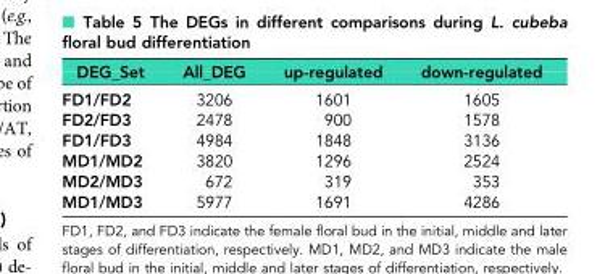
<table><thead><tr><td>DEG_Set</td><td>All_DEG</td><td>up-regulated</td><td>down-regulated</td></tr></thead><tbody><tr><td>FD1/FD2</td><td>3206</td><td>1601</td><td>1605</td></tr><tr><td>FD2/FD3</td><td>2478</td><td>900</td><td>1578</td></tr><tr><td>FD1/FD3</td><td>4984</td><td>1848</td><td>3136</td></tr><tr><td>MD1/MD2</td><td>3820</td><td>1296</td><td>2524</td></tr><tr><td>MD2/MD3</td><td>672</td><td>319</td><td>353</td></tr><tr><td>MD1/MD3</td><td>5977</td><td>1691</td><td>4286</td></tr></tbody></table>